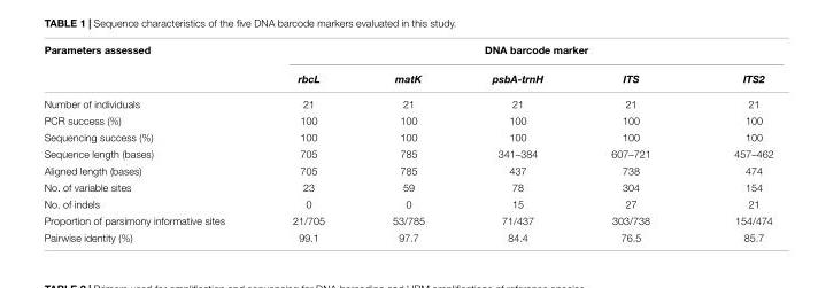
<table><thead><tr><td rowspan="2">Parameters assessed</td><td colspan="5">DNA barcode marker</td></tr><tr><td>rbcL</td><td>matK</td><td>psbA-trnH</td><td>ITS</td><td>ITS2</td></tr></thead><tbody><tr><td>Number of individuals</td><td>21</td><td>21</td><td>21</td><td>21</td><td>21</td></tr><tr><td>PCR success (%)</td><td>100</td><td>100</td><td>100</td><td>100</td><td>100</td></tr><tr><td>Sequencing success (%)</td><td>100</td><td>100</td><td>100</td><td>100</td><td>100</td></tr><tr><td>Sequence length (bases)</td><td>705</td><td>785</td><td>341–384</td><td>607–721</td><td>457–462</td></tr><tr><td>Aligned length (bases)</td><td>705</td><td>785</td><td>437</td><td>738</td><td>474</td></tr><tr><td>No. of variable sites</td><td>23</td><td>59</td><td>78</td><td>304</td><td>154</td></tr><tr><td>No. of indels</td><td>0</td><td>0</td><td>15</td><td>27</td><td>21</td></tr><tr><td>Proportion of parsimony informative sites</td><td>21/705</td><td>53/785</td><td>71/437</td><td>303/738</td><td>154/474</td></tr><tr><td>Pairwise identity (%)</td><td>99.1</td><td>97.7</td><td>84.4</td><td>76.5</td><td>85.7</td></tr></tbody></table>